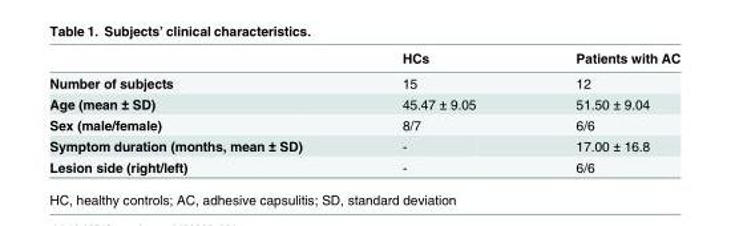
<table><thead><tr><td></td><td>HCs</td><td>Patients with AC</td></tr></thead><tbody><tr><td>Number of subjects</td><td>15</td><td>12</td></tr><tr><td>Age (mean ± SD)</td><td>45.47 ± 9.05</td><td>51.50 ± 9.04</td></tr><tr><td>Sex (male/female)</td><td>8/7</td><td>6/6</td></tr><tr><td>Symptom duration (months, mean ± SD)</td><td>-</td><td>17.00 ± 16.8</td></tr><tr><td>Lesion side (right/left)</td><td>-</td><td>6/6</td></tr></tbody></table>